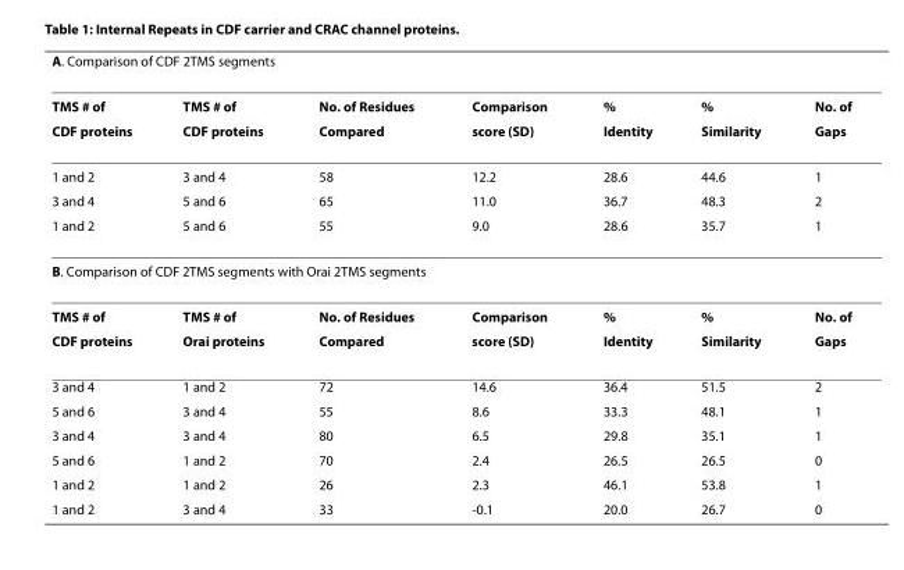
<table><thead><tr><td colspan="3">A. Comparison of CDF 2TMS segments</td><td rowspan="2">Comparison</td><td rowspan="2">%</td><td rowspan="2">%</td><td rowspan="2">No. of</td></tr><tr><td>TMS # of</td><td>TMS # of</td><td>No. of Residues</td></tr></thead><tbody><tr><td>CDF proteins</td><td>CDF proteins</td><td>Compared</td><td>score (SD)</td><td>Identity</td><td>Similarity</td><td>Gaps</td></tr><tr><td>1 and 2</td><td>3 and 4</td><td>58</td><td>12.2</td><td>28.6</td><td>44.6</td><td>1</td></tr><tr><td>3 and 4</td><td>5 and 6</td><td>65</td><td>11.0</td><td>36.7</td><td>48.3</td><td>2</td></tr><tr><td>1 and 2</td><td>5 and 6</td><td>55</td><td>9.0</td><td>28.6</td><td>35.7</td><td>1</td></tr><tr><td colspan="7">B. Comparison of CDF 2TMS segments with Orai 2TMS segments</td></tr><tr><td>TMS # of</td><td>TMS # of</td><td>No. of Residues</td><td>Comparison</td><td>%</td><td>%</td><td>No. of</td></tr><tr><td>CDF proteins</td><td>Orai proteins</td><td>Compared</td><td>score (SD)</td><td>Identity</td><td>Similarity</td><td>Gaps</td></tr><tr><td>3 and 4</td><td>1 and 2</td><td>72</td><td>14.6</td><td>36.4</td><td>51.5</td><td>2</td></tr><tr><td>5 and 6</td><td>3 and 4</td><td>55</td><td>8.6</td><td>33.3</td><td>48.1</td><td>1</td></tr><tr><td>3 and 4</td><td>3 and 4</td><td>80</td><td>6.5</td><td>29.8</td><td>35.1</td><td>1</td></tr><tr><td>5 and 6</td><td>1 and 2</td><td>70</td><td>2.4</td><td>26.5</td><td>26.5</td><td>0</td></tr><tr><td>1 and 2</td><td>1 and 2</td><td>26</td><td>2.3</td><td>46.1</td><td>53.8</td><td>1</td></tr><tr><td>1 and 2</td><td>3 and 4</td><td>33</td><td>-0.1</td><td>20.0</td><td>26.7</td><td>0</td></tr></tbody></table>